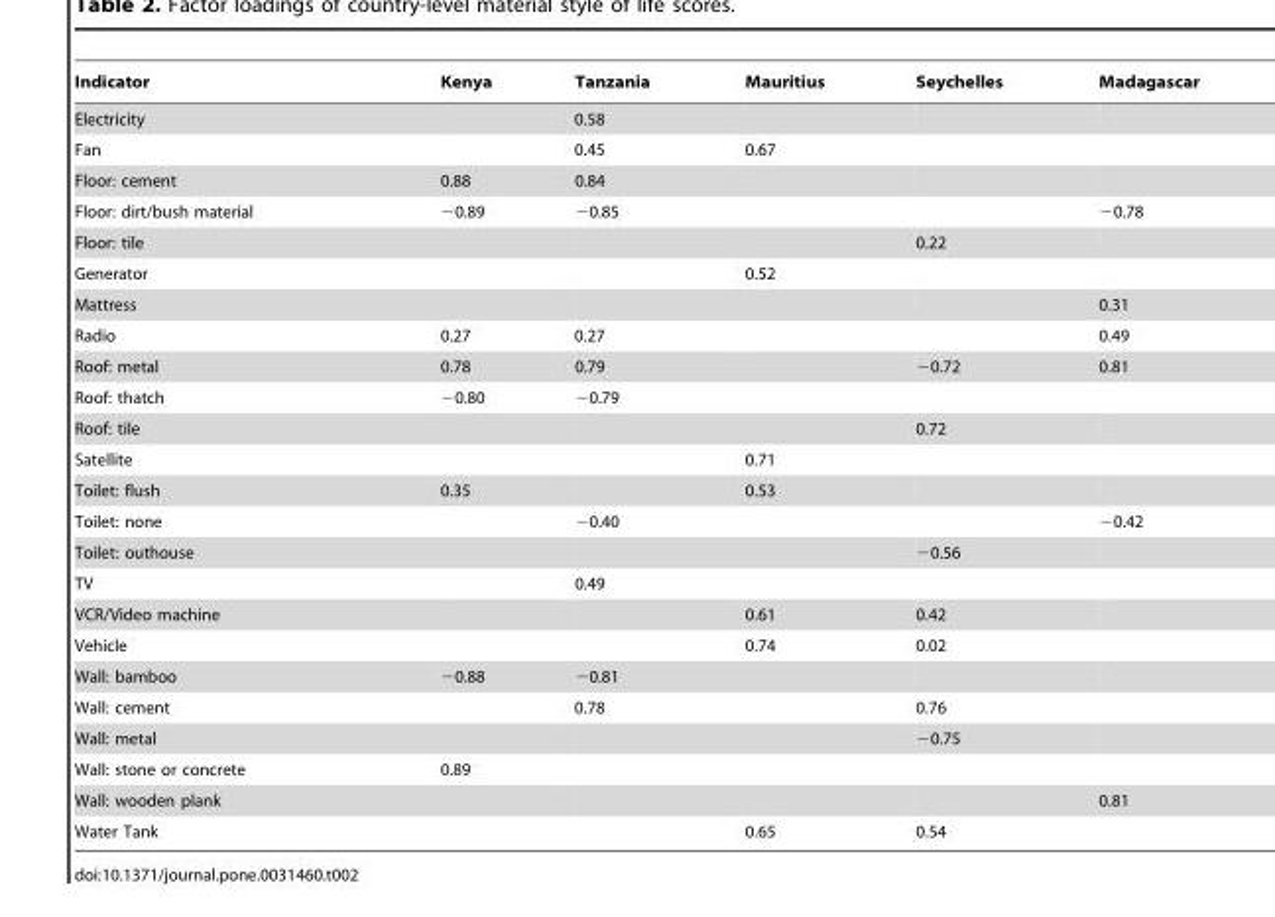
<table><thead><tr><td>Indicator</td><td>Kenya</td><td>Tanzania</td><td>Mauritius</td><td>Seychelles</td><td>Madagascar</td></tr></thead><tbody><tr><td>Electricity</td><td></td><td>0.58</td><td></td><td></td><td></td></tr><tr><td>Fan</td><td></td><td>0.45</td><td>0.67</td><td></td><td></td></tr><tr><td>Floor: cement</td><td>0.88</td><td>0.84</td><td></td><td></td><td></td></tr><tr><td>Floor: dirt/bush material</td><td>−0.89</td><td>−0.85</td><td></td><td></td><td>−0.78</td></tr><tr><td>Floor: tile</td><td></td><td></td><td></td><td>0.22</td><td></td></tr><tr><td>Generator</td><td></td><td></td><td>0.52</td><td></td><td></td></tr><tr><td>Mattress</td><td></td><td></td><td></td><td></td><td>0.31</td></tr><tr><td>Radio</td><td>0.27</td><td>0.27</td><td></td><td></td><td>0.49</td></tr><tr><td>Roof: metal</td><td>0.78</td><td>0.79</td><td></td><td>−0.72</td><td>0.81</td></tr><tr><td>Roof: thatch</td><td>−0.80</td><td>−0.79</td><td></td><td></td><td></td></tr><tr><td>Roof: tile</td><td></td><td></td><td></td><td>0.72</td><td></td></tr><tr><td>Satellite</td><td></td><td></td><td>0.71</td><td></td><td></td></tr><tr><td>Toilet: flush</td><td>0.35</td><td></td><td>0.53</td><td></td><td></td></tr><tr><td>Toilet: none</td><td></td><td>−0.40</td><td></td><td></td><td>−0.42</td></tr><tr><td>Toilet: outhouse</td><td></td><td></td><td></td><td>−0.56</td><td></td></tr><tr><td>TV</td><td></td><td>0.49</td><td></td><td></td><td></td></tr><tr><td>VCR/Video machine</td><td></td><td></td><td>0.61</td><td>0.42</td><td></td></tr><tr><td>Vehicle</td><td></td><td></td><td>0.74</td><td>0.02</td><td></td></tr><tr><td>Wall: bamboo</td><td>−0.88</td><td>−0.81</td><td></td><td></td><td></td></tr><tr><td>Wall: cement</td><td></td><td>0.78</td><td></td><td>0.76</td><td></td></tr><tr><td>Wall: metal</td><td></td><td></td><td></td><td>−0.75</td><td></td></tr><tr><td>Wall: stone or concrete</td><td>0.89</td><td></td><td></td><td></td><td></td></tr><tr><td>Wall: wooden plank</td><td></td><td></td><td></td><td></td><td>0.81</td></tr><tr><td>Water Tank</td><td></td><td></td><td>0.65</td><td>0.54</td><td></td></tr></tbody></table>